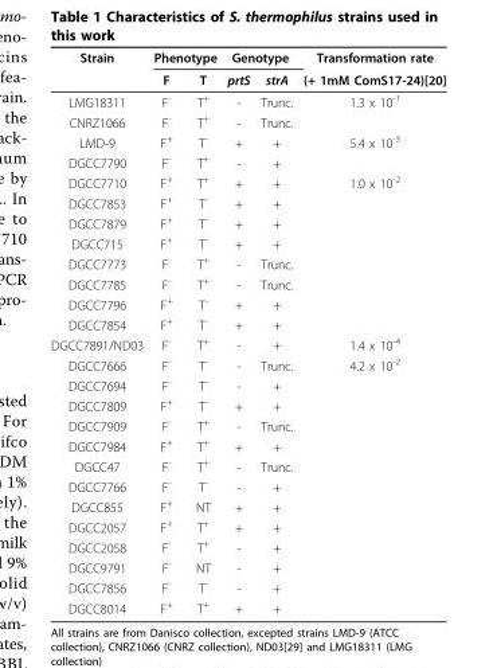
<table><thead><tr><td rowspan="2">Strain</td><td colspan="2">Phenotype</td><td colspan="2">Genotype</td><td rowspan="2">Transformation rate (+ 1mM ComS17-24)[20]</td></tr><tr><td>F</td><td>T</td><td>prtS</td><td>strA</td></tr></thead><tbody><tr><td>LMG18311</td><td>F<sup>-</sup></td><td>T<sup>+</sup></td><td>-</td><td>Trunc.</td><td>1.3 x 10<sup>-1</sup></td></tr><tr><td>CNRZ1066</td><td>F<sup>-</sup></td><td>T<sup>+</sup></td><td>-</td><td>Trunc.</td><td></td></tr><tr><td>LMD-9</td><td>F<sup>+</sup></td><td>T<sup>-</sup></td><td>+</td><td>+</td><td>5.4 x 10<sup>-3</sup></td></tr><tr><td>DGCC7790</td><td>F<sup>-</sup></td><td>T<sup>+</sup></td><td>-</td><td>+</td><td></td></tr><tr><td>DGCC7710</td><td>F<sup>+</sup></td><td>T<sup>+</sup></td><td>+</td><td>+</td><td>1.0 x 10<sup>-2</sup></td></tr><tr><td>DGCC7853</td><td>F<sup>+</sup></td><td>T<sup>-</sup></td><td>+</td><td>+</td><td></td></tr><tr><td>DGCC7879</td><td>F<sup>+</sup></td><td>T<sup>-</sup></td><td>+</td><td>+</td><td></td></tr><tr><td>DGCC715</td><td>F<sup>+</sup></td><td>T<sup>-</sup></td><td>+</td><td>+</td><td></td></tr><tr><td>DGCC7773</td><td>F<sup>-</sup></td><td>T<sup>+</sup></td><td>-</td><td>Trunc.</td><td></td></tr><tr><td>DGCC7785</td><td>F<sup>-</sup></td><td>T<sup>+</sup></td><td>-</td><td>Trunc.</td><td></td></tr><tr><td>DGCC7796</td><td>F<sup>+</sup></td><td>T<sup>-</sup></td><td>+</td><td>+</td><td></td></tr><tr><td>DGCC7854</td><td>F<sup>+</sup></td><td>T<sup>-</sup></td><td>+</td><td>+</td><td></td></tr><tr><td>DGCC7891/ND03</td><td>F<sup>-</sup></td><td>T<sup>+</sup></td><td>-</td><td>+</td><td>1.4 x 10<sup>-4</sup></td></tr><tr><td>DGCC7666</td><td>F<sup>-</sup></td><td>T<sup>-</sup></td><td>-</td><td>Trunc.</td><td>4.2 x 10<sup>-2</sup></td></tr><tr><td>DGCC7694</td><td>F<sup>-</sup></td><td>T<sup>-</sup></td><td>-</td><td>+</td><td></td></tr><tr><td>DGCC7809</td><td>F<sup>+</sup></td><td>T<sup>-</sup></td><td>+</td><td>+</td><td></td></tr><tr><td>DGCC7909</td><td>F<sup>-</sup></td><td>T<sup>+</sup></td><td>-</td><td>Trunc.</td><td></td></tr><tr><td>DGCC7984</td><td>F<sup>+</sup></td><td>T<sup>+</sup></td><td>+</td><td>+</td><td></td></tr><tr><td>DGCC47</td><td>F<sup>-</sup></td><td>T<sup>+</sup></td><td>-</td><td>Trunc.</td><td></td></tr><tr><td>DGCC7766</td><td>F<sup>-</sup></td><td>T<sup>-</sup></td><td>-</td><td>+</td><td></td></tr><tr><td>DGCC855</td><td>F<sup>+</sup></td><td>NT</td><td>+</td><td>+</td><td></td></tr><tr><td>DGCC2057</td><td>F<sup>+</sup></td><td>T<sup>+</sup></td><td>+</td><td>+</td><td></td></tr><tr><td>DGCC2058</td><td>F<sup>-</sup></td><td>T<sup>+</sup></td><td>-</td><td>+</td><td></td></tr><tr><td>DGCC9791</td><td>F<sup>-</sup></td><td>NT</td><td>-</td><td>+</td><td></td></tr><tr><td>DGCC7856</td><td>F<sup>-</sup></td><td>T<sup>-</sup></td><td>-</td><td>+</td><td></td></tr><tr><td>DGCC8014</td><td>F<sup>+</sup></td><td>T<sup>+</sup></td><td>+</td><td>+</td><td></td></tr></tbody></table>